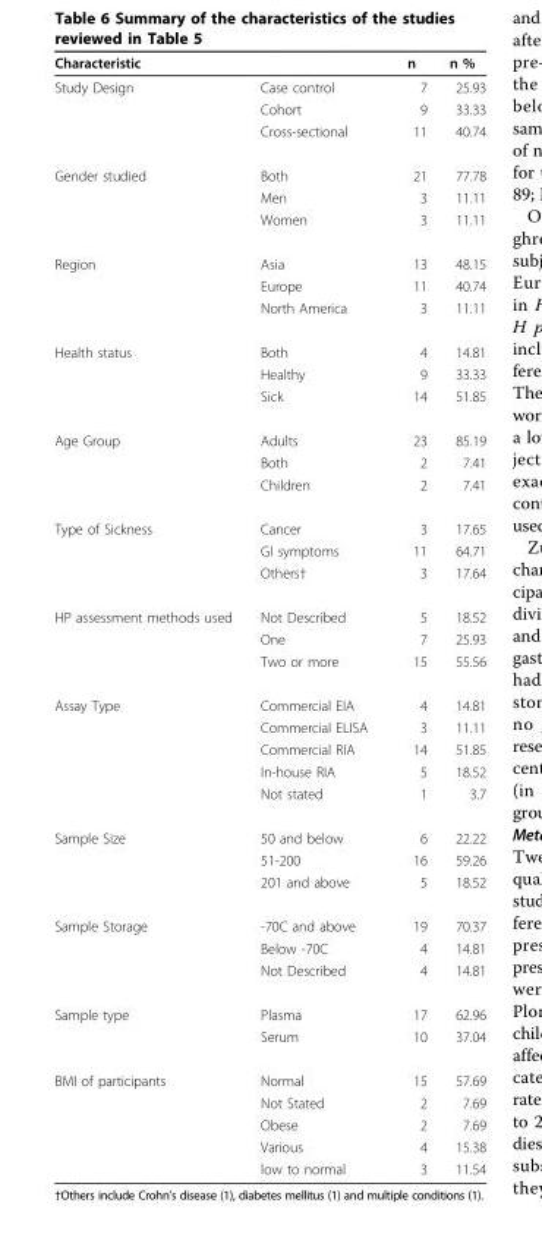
<table><thead><tr><td>Characteristic</td><td></td><td>n</td><td>n %</td></tr></thead><tbody><tr><td rowspan="3">Study Design</td><td>Case control</td><td>7</td><td>25.93</td></tr><tr><td>Cohort</td><td>9</td><td>33.33</td></tr><tr><td>Cross-sectional</td><td>11</td><td>40.74</td></tr><tr><td rowspan="3">Gender studied</td><td>Both</td><td>21</td><td>77.78</td></tr><tr><td>Men</td><td>3</td><td>11.11</td></tr><tr><td>Women</td><td>3</td><td>11.11</td></tr><tr><td rowspan="3">Region</td><td>Asia</td><td>13</td><td>48.15</td></tr><tr><td>Europe</td><td>11</td><td>40.74</td></tr><tr><td>North America</td><td>3</td><td>11.11</td></tr><tr><td rowspan="3">Health status</td><td>Both</td><td>4</td><td>14.81</td></tr><tr><td>Healthy</td><td>9</td><td>33.33</td></tr><tr><td>Sick</td><td>14</td><td>51.85</td></tr><tr><td rowspan="3">Age Group</td><td>Adults</td><td>23</td><td>85.19</td></tr><tr><td>Both</td><td>2</td><td>7.41</td></tr><tr><td>Children</td><td>2</td><td>7.41</td></tr><tr><td rowspan="3">Type of Sickness</td><td>Cancer</td><td>3</td><td>17.65</td></tr><tr><td>GI symptoms</td><td>11</td><td>64.71</td></tr><tr><td>Others†</td><td>3</td><td>17.64</td></tr><tr><td rowspan="3">HP assessment methods used</td><td>Not Described</td><td>5</td><td>18.52</td></tr><tr><td>One</td><td>7</td><td>25.93</td></tr><tr><td>Two or more</td><td>15</td><td>55.56</td></tr><tr><td rowspan="5">Assay Type</td><td>Commercial EIA</td><td>4</td><td>14.81</td></tr><tr><td>Commercial ELISA</td><td>3</td><td>11.11</td></tr><tr><td>Commercial RIA</td><td>14</td><td>51.85</td></tr><tr><td>In-house RIA</td><td>5</td><td>18.52</td></tr><tr><td>Not stated</td><td>1</td><td>3.7</td></tr><tr><td rowspan="3">Sample Size</td><td>50 and below</td><td>6</td><td>22.22</td></tr><tr><td>51-200</td><td>16</td><td>59.26</td></tr><tr><td>201 and above</td><td>5</td><td>18.52</td></tr><tr><td rowspan="3">Sample Storage</td><td>-70C and above</td><td>19</td><td>70.37</td></tr><tr><td>Below -70C</td><td>4</td><td>14.81</td></tr><tr><td>Not Described</td><td>4</td><td>14.81</td></tr><tr><td rowspan="2">Sample type</td><td>Plasma</td><td>17</td><td>62.96</td></tr><tr><td>Serum</td><td>10</td><td>37.04</td></tr><tr><td rowspan="5">BMI of participants</td><td>Normal</td><td>15</td><td>57.69</td></tr><tr><td>Not Stated</td><td>2</td><td>7.69</td></tr><tr><td>Obese</td><td>2</td><td>7.69</td></tr><tr><td>Various</td><td>4</td><td>15.38</td></tr><tr><td>low to normal</td><td>3</td><td>11.54</td></tr></tbody></table>